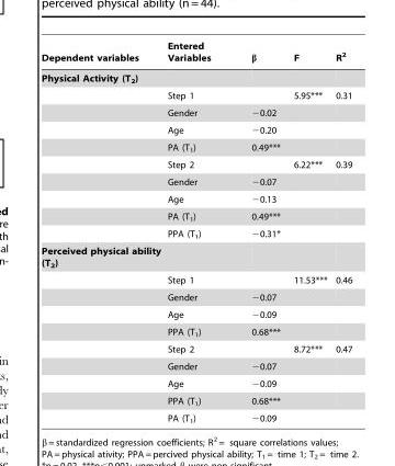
<table><thead><tr><td>Dependent variables</td><td>Entered Variables</td><td>β</td><td>F</td><td>R<sup>2</sup></td></tr></thead><tbody><tr><td colspan="5">Physical Activity (T<sub>2</sub>)</td></tr><tr><td></td><td>Step 1</td><td></td><td>5.95***</td><td>0.31</td></tr><tr><td></td><td>Gender</td><td>−0.02</td><td></td><td></td></tr><tr><td></td><td>Age</td><td>−0.20</td><td></td><td></td></tr><tr><td></td><td>PA (T<sub>1</sub>)</td><td>0.49***</td><td></td><td></td></tr><tr><td></td><td>Step 2</td><td></td><td>6.22***</td><td>0.39</td></tr><tr><td></td><td>Gender</td><td>−0.07</td><td></td><td></td></tr><tr><td></td><td>Age</td><td>−0.13</td><td></td><td></td></tr><tr><td></td><td>PA (T<sub>1</sub>)</td><td>0.49***</td><td></td><td></td></tr><tr><td></td><td>PPA (T<sub>1</sub>)</td><td>−0.31*</td><td></td><td></td></tr><tr><td colspan="5">Perceived physical ability (T<sub>2</sub>)</td></tr><tr><td></td><td>Step 1</td><td></td><td>11.53***</td><td>0.46</td></tr><tr><td></td><td>Gender</td><td>−0.07</td><td></td><td></td></tr><tr><td></td><td>Age</td><td>−0.09</td><td></td><td></td></tr><tr><td></td><td>PPA (T<sub>1</sub>)</td><td>0.68***</td><td></td><td></td></tr><tr><td></td><td>Step 2</td><td></td><td>8.72***</td><td>0.47</td></tr><tr><td></td><td>Gender</td><td>−0.07</td><td></td><td></td></tr><tr><td></td><td>Age</td><td>−0.09</td><td></td><td></td></tr><tr><td></td><td>PPA (T<sub>1</sub>)</td><td>0.68***</td><td></td><td></td></tr><tr><td></td><td>PA (T<sub>1</sub>)</td><td>−0.09</td><td></td><td></td></tr></tbody></table>